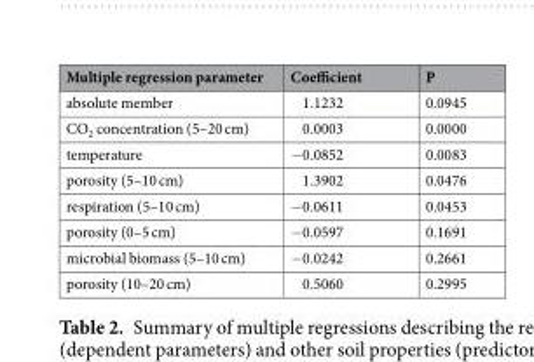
<table><thead><tr><td>Multiple regression parameter</td><td>Coefficient</td><td>P</td></tr></thead><tbody><tr><td>absolute member</td><td>1.1232</td><td>0.0945</td></tr><tr><td>CO<sub>2</sub> concentration (5–20 cm)</td><td>0.0003</td><td>0.0000</td></tr><tr><td>temperature</td><td>−0.0852</td><td>0.0083</td></tr><tr><td>porosity (5–10 cm)</td><td>1.3902</td><td>0.0476</td></tr><tr><td>respiration (5–10 cm)</td><td>−0.0611</td><td>0.0453</td></tr><tr><td>porosity (0–5 cm)</td><td>−0.0597</td><td>0.1691</td></tr><tr><td>microbial biomass (5–10 cm)</td><td>−0.0242</td><td>0.2661</td></tr><tr><td>porosity (10–20 cm)</td><td>0.5060</td><td>0.2995</td></tr></tbody></table>